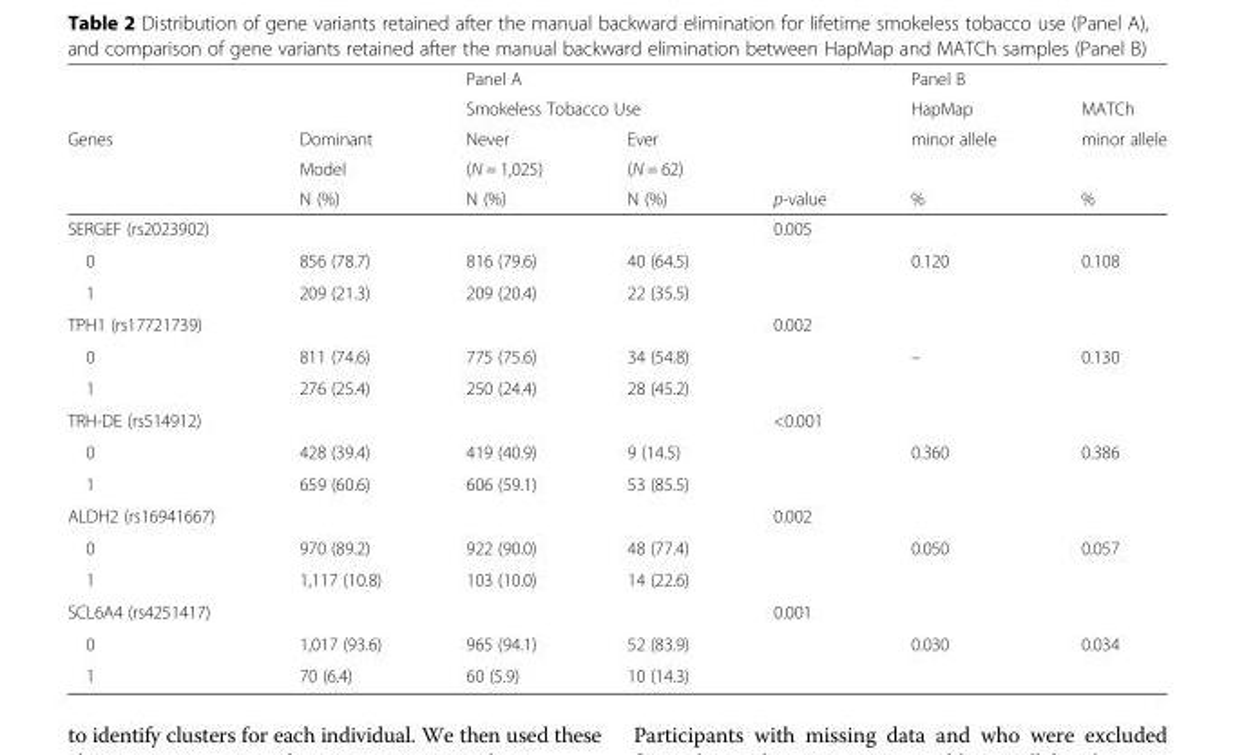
<table><thead><tr><td rowspan="5">Genes</td><td rowspan="5">Dominant Model N (%)</td><td rowspan="2" colspan="3">Panel A Smokeless Tobacco Use</td><td colspan="2">Panel B</td></tr><tr><td rowspan="4">HapMap minor allele %</td><td rowspan="4">MATCh minor allele %</td></tr><tr><td rowspan="3">Never (N = 1,025) N (%)</td><td rowspan="3">Ever (N = 62) N (%)</td><td rowspan="3">p-value</td></tr><tr></tr><tr></tr></thead><tbody><tr><td>SERGEF (rs2023902)</td><td></td><td></td><td></td><td>0.005</td><td></td><td></td></tr><tr><td>0</td><td>856 (78.7)</td><td>816 (79.6)</td><td>40 (64.5)</td><td></td><td>0.120</td><td>0.108</td></tr><tr><td>1</td><td>209 (21.3)</td><td>209 (20.4)</td><td>22 (35.5)</td><td></td><td></td><td></td></tr><tr><td>TPH1 (rs17721739)</td><td></td><td></td><td></td><td>0.002</td><td></td><td></td></tr><tr><td>0</td><td>811 (74.6)</td><td>775 (75.6)</td><td>34 (54.8)</td><td></td><td>–</td><td>0.130</td></tr><tr><td>1</td><td>276 (25.4)</td><td>250 (24.4)</td><td>28 (45.2)</td><td></td><td></td><td></td></tr><tr><td>TRH-DE (rs514912)</td><td></td><td></td><td></td><td>&lt;0.001</td><td></td><td></td></tr><tr><td>0</td><td>428 (39.4)</td><td>419 (40.9)</td><td>9 (14.5)</td><td></td><td>0.360</td><td>0.386</td></tr><tr><td>1</td><td>659 (60.6)</td><td>606 (59.1)</td><td>53 (85.5)</td><td></td><td></td><td></td></tr><tr><td>ALDH2 (rs16941667)</td><td></td><td></td><td></td><td>0.002</td><td></td><td></td></tr><tr><td>0</td><td>970 (89.2)</td><td>922 (90.0)</td><td>48 (77.4)</td><td></td><td>0.050</td><td>0.057</td></tr><tr><td>1</td><td>1,117 (10.8)</td><td>103 (10.0)</td><td>14 (22.6)</td><td></td><td></td><td></td></tr><tr><td>SCL6A4 (rs4251417)</td><td></td><td></td><td></td><td>0.001</td><td></td><td></td></tr><tr><td>0</td><td>1,017 (93.6)</td><td>965 (94.1)</td><td>52 (83.9)</td><td></td><td>0.030</td><td>0.034</td></tr><tr><td>1</td><td>70 (6.4)</td><td>60 (5.9)</td><td>10 (14.3)</td><td></td><td></td><td></td></tr></tbody></table>